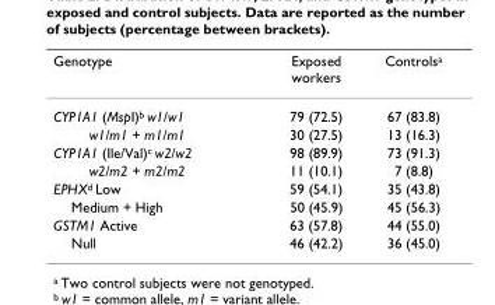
<table><thead><tr><td>Genotype</td><td>Exposed workers</td><td>Controls<sup>a</sup></td></tr></thead><tbody><tr><td>CYP1A1 (MspI)<sup>b</sup> w1/w1</td><td>79 (72.5)</td><td>67 (83.8)</td></tr><tr><td>w1/m1 + m1/m1</td><td>30 (27.5)</td><td>13 (16.3)</td></tr><tr><td>CYP1A1 (Ile/Val)<sup>c</sup> w2/w2</td><td>98 (89.9)</td><td>73 (91.3)</td></tr><tr><td>w2/m2 + m2/m2</td><td>11 (10.1)</td><td>7 (8.8)</td></tr><tr><td>EPHX<sup>d</sup> Low</td><td>59 (54.1)</td><td>35 (43.8)</td></tr><tr><td>Medium + High</td><td>50 (45.9)</td><td>45 (56.3)</td></tr><tr><td>GSTM1 Active</td><td>63 (57.8)</td><td>44 (55.0)</td></tr><tr><td>Null</td><td>46 (42.2)</td><td>36 (45.0)</td></tr></tbody></table>